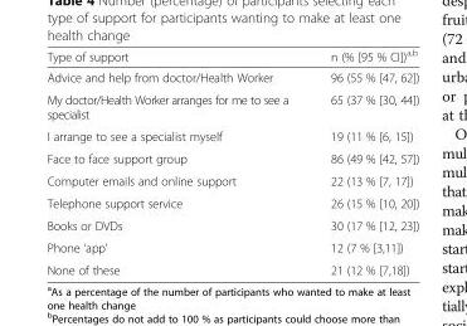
<table><thead><tr><td>Type of support</td><td>n (% [95 % CI])<sup>a,b</sup></td></tr></thead><tbody><tr><td>Advice and help from doctor/Health Worker</td><td>96 (55 % [47, 62])</td></tr><tr><td>My doctor/Health Worker arranges for me to see a specialist</td><td>65 (37 % [30, 44])</td></tr><tr><td>I arrange to see a specialist myself</td><td>19 (11 % [6, 15])</td></tr><tr><td>Face to face support group</td><td>86 (49 % [42, 57])</td></tr><tr><td>Computer emails and online support</td><td>22 (13 % [7, 17])</td></tr><tr><td>Telephone support service</td><td>26 (15 % [10, 20])</td></tr><tr><td>Books or DVDs</td><td>30 (17 % [12, 23])</td></tr><tr><td>Phone ‘app’</td><td>12 (7 % [3,11])</td></tr><tr><td>None of these</td><td>21 (12 % [7,18])</td></tr></tbody></table>